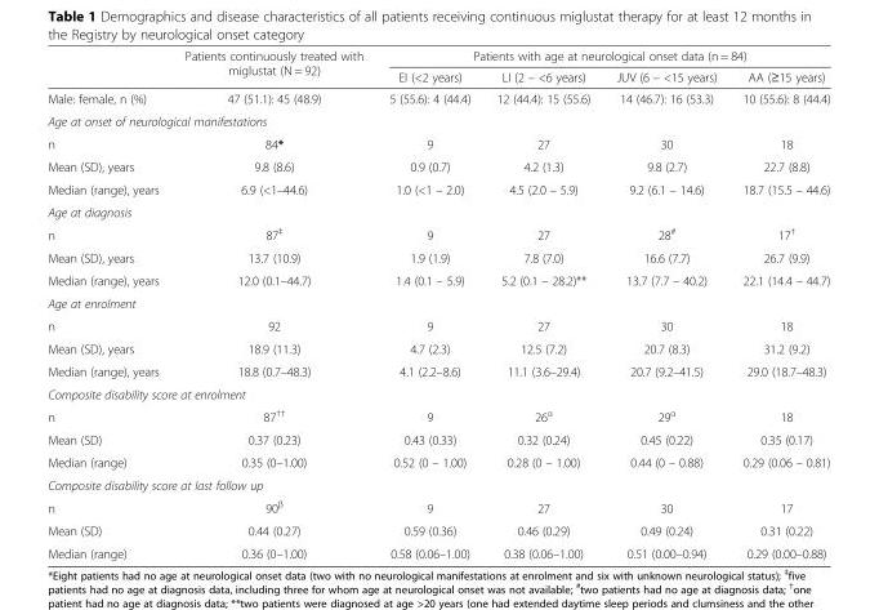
<table><thead><tr><td rowspan="2"></td><td rowspan="2">Patients continuously treated with miglustat (N = 92)</td><td colspan="4">Patients with age at neurological onset data (n = 84)</td></tr><tr><td>EI (&lt;2 years)</td><td>LI (2 – &lt;6 years)</td><td>JUV (6 – &lt;15 years)</td><td>AA (≥15 years)</td></tr></thead><tbody><tr><td>Male: female, n (%)</td><td>47 (51.1): 45 (48.9)</td><td>5 (55.6): 4 (44.4)</td><td>12 (44.4): 15 (55.6)</td><td>14 (46.7): 16 (53.3)</td><td>10 (55.6): 8 (44.4)</td></tr><tr><td colspan="6">Age at onset of neurological manifestations</td></tr><tr><td>n</td><td>84*</td><td>9</td><td>27</td><td>30</td><td>18</td></tr><tr><td>Mean (SD), years</td><td>9.8 (8.6)</td><td>0.9 (0.7)</td><td>4.2 (1.3)</td><td>9.8 (2.7)</td><td>22.7 (8.8)</td></tr><tr><td>Median (range), years</td><td>6.9 (&lt;1–44.6)</td><td>1.0 (&lt;1 – 2.0)</td><td>4.5 (2.0 – 5.9)</td><td>9.2 (6.1 – 14.6)</td><td>18.7 (15.5 – 44.6)</td></tr><tr><td colspan="6">Age at diagnosis</td></tr><tr><td>n</td><td>87<sup>‡</sup></td><td>9</td><td>27</td><td>28<sup>#</sup></td><td>17<sup>†</sup></td></tr><tr><td>Mean (SD), years</td><td>13.7 (10.9)</td><td>1.9 (1.9)</td><td>7.8 (7.0)</td><td>16.6 (7.7)</td><td>26.7 (9.9)</td></tr><tr><td>Median (range), years</td><td>12.0 (0.1–44.7)</td><td>1.4 (0.1 – 5.9)</td><td>5.2 (0.1 – 28.2)**</td><td>13.7 (7.7 – 40.2)</td><td>22.1 (14.4 – 44.7)</td></tr><tr><td colspan="6">Age at enrolment</td></tr><tr><td>n</td><td>92</td><td>9</td><td>27</td><td>30</td><td>18</td></tr><tr><td>Mean (SD), years</td><td>18.9 (11.3)</td><td>4.7 (2.3)</td><td>12.5 (7.2)</td><td>20.7 (8.3)</td><td>31.2 (9.2)</td></tr><tr><td>Median (range), years</td><td>18.8 (0.7–48.3)</td><td>4.1 (2.2–8.6)</td><td>11.1 (3.6–29.4)</td><td>20.7 (9.2–41.5)</td><td>29.0 (18.7–48.3)</td></tr><tr><td colspan="6">Composite disability score at enrolment</td></tr><tr><td>n</td><td>87<sup>††</sup></td><td>9</td><td>26<sup>α</sup></td><td>29<sup>α</sup></td><td>18</td></tr><tr><td>Mean (SD)</td><td>0.37 (0.23)</td><td>0.43 (0.33)</td><td>0.32 (0.24)</td><td>0.45 (0.22)</td><td>0.35 (0.17)</td></tr><tr><td>Median (range)</td><td>0.35 (0–1.00)</td><td>0.52 (0 – 1.00)</td><td>0.28 (0 – 1.00)</td><td>0.44 (0 – 0.88)</td><td>0.29 (0.06 – 0.81)</td></tr><tr><td colspan="6">Composite disability score at last follow up</td></tr><tr><td>n</td><td>90<sup>β</sup></td><td>9</td><td>27</td><td>30</td><td>17</td></tr><tr><td>Mean (SD)</td><td>0.44 (0.27)</td><td>0.59 (0.36)</td><td>0.46 (0.29)</td><td>0.49 (0.24)</td><td>0.31 (0.22)</td></tr><tr><td>Median (range)</td><td>0.36 (0–1.00)</td><td>0.58 (0.06–1.00)</td><td>0.38 (0.06–1.00)</td><td>0.51 (0.00–0.94)</td><td>0.29 (0.00–0.88)</td></tr></tbody></table>